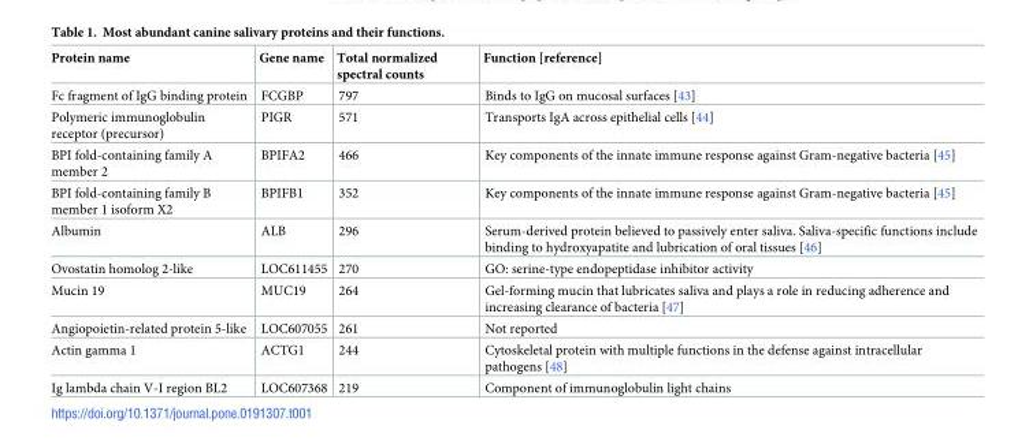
<table><thead><tr><td>Protein name</td><td>Gene name</td><td>Total normalized spectral counts</td><td>Function [reference]</td></tr></thead><tbody><tr><td>Fc fragment of IgG binding protein</td><td>FCGBP</td><td>797</td><td>Binds to IgG on mucosal surfaces [43]</td></tr><tr><td>Polymeric immunoglobulin receptor (precursor)</td><td>PIGR</td><td>571</td><td>Transports IgA across epithelial cells [44]</td></tr><tr><td>BPI fold-containing family A member 2</td><td>BPIFA2</td><td>466</td><td>Key components of the innate immune response against Gram-negative bacteria [45]</td></tr><tr><td>BPI fold-containing family B member 1 isoform X2</td><td>BPIFB1</td><td>352</td><td>Key components of the innate immune response against Gram-negative bacteria [45]</td></tr><tr><td>Albumin</td><td>ALB</td><td>296</td><td>Serum-derived protein believed to passively enter saliva. Saliva-specific functions include binding to hydroxyapatite and lubrication of oral tissues [46]</td></tr><tr><td>Ovostatin homolog 2-like</td><td>LOC611455</td><td>270</td><td>GO: serine-type endopeptidase inhibitor activity</td></tr><tr><td>Mucin 19</td><td>MUC19</td><td>264</td><td>Gel-forming mucin that lubricates saliva and plays a role in reducing adherence and increasing clearance of bacteria [47]</td></tr><tr><td>Angiopoietin-related protein 5-like</td><td>LOC607055</td><td>261</td><td>Not reported</td></tr><tr><td>Actin gamma 1</td><td>ACTG1</td><td>244</td><td>Cytoskeletal protein with multiple functions in the defense against intracellular pathogens [48]</td></tr><tr><td>Ig lambda chain V-I region BL2</td><td>LOC607368</td><td>219</td><td>Component of immunoglobulin light chains</td></tr></tbody></table>